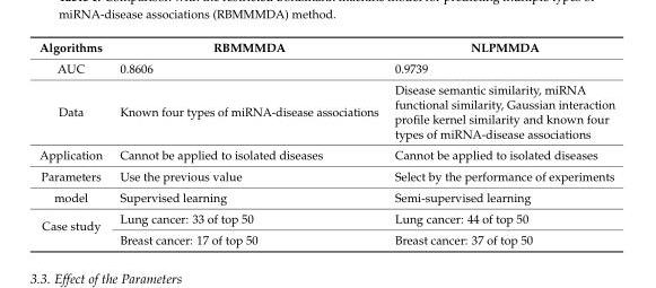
<table><thead><tr><td>Algorithms</td><td>RBMMMDA</td><td>NLPMMDA</td></tr></thead><tbody><tr><td>AUC</td><td>0.8606</td><td>0.9739</td></tr><tr><td>Data</td><td>Known four types of miRNA-disease associations</td><td>Disease semantic similarity, miRNA functional similarity, Gaussian interaction profile kernel similarity and known four types of miRNA-disease associations</td></tr><tr><td>Application</td><td>Cannot be applied to isolated diseases</td><td>Cannot be applied to isolated diseases</td></tr><tr><td>Parameters</td><td>Use the previous value</td><td>Select by the performance of experiments</td></tr><tr><td>model</td><td>Supervised learning</td><td>Semi-supervised learning</td></tr><tr><td rowspan="2">Case study</td><td>Lung cancer: 33 of top 50</td><td>Lung cancer: 44 of top 50</td></tr><tr><td>Breast cancer: 17 of top 50</td><td>Breast cancer: 37 of top 50</td></tr></tbody></table>